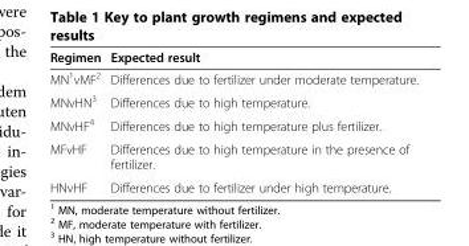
<table><thead><tr><td>Regimen</td><td>Expected result</td></tr></thead><tbody><tr><td>MN<sup>1</sup>vMF<sup>2</sup></td><td>Differences due to fertilizer under moderate temperature.</td></tr><tr><td>MNvHN<sup>3</sup></td><td>Differences due to high temperature.</td></tr><tr><td>MNvHF<sup>4</sup></td><td>Differences due to high temperature plus fertilizer.</td></tr><tr><td>MFvHF</td><td>Differences due to high temperature in the presence of fertilizer.</td></tr><tr><td>HNvHF</td><td>Differences due to fertilizer under high temperature.</td></tr></tbody></table>